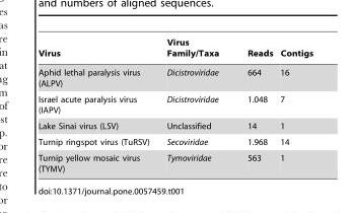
<table><thead><tr><td>Virus</td><td>Virus Family/Taxa</td><td>Reads</td><td>Contigs</td></tr></thead><tbody><tr><td>Aphid lethal paralysis virus (ALPV)</td><td>Dicistroviridae</td><td>664</td><td>16</td></tr><tr><td>Israel acute paralysis virus (IAPV)</td><td>Dicistroviridae</td><td>1.048</td><td>7</td></tr><tr><td>Lake Sinai virus (LSV)</td><td>Unclassified</td><td>14</td><td>1</td></tr><tr><td>Turnip ringspot virus (TuRSV)</td><td>Secoviridae</td><td>1.968</td><td>14</td></tr><tr><td>Turnip yellow mosaic virus (TYMV)</td><td>Tymoviridae</td><td>563</td><td>1</td></tr></tbody></table>